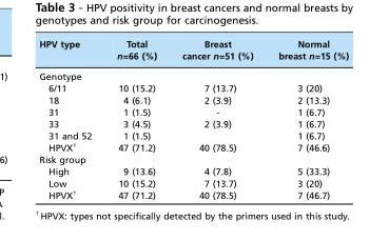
<table><thead><tr><td>HPV type</td><td>Total n=66 (%)</td><td>Breast cancer n=51 (%)</td><td>Normal breast n=15 (%)</td></tr></thead><tbody><tr><td colspan="4">Genotype</td></tr><tr><td>6/11</td><td>10 (15.2)</td><td>7 (13.7)</td><td>3 (20)</td></tr><tr><td>18</td><td>4 (6.1)</td><td>2 (3.9)</td><td>2 (13.3)</td></tr><tr><td>31</td><td>1 (1.5)</td><td>-</td><td>1 (6.7)</td></tr><tr><td>33</td><td>3 (4.5)</td><td>2 (3.9)</td><td>1 (6.7)</td></tr><tr><td>31 and 52</td><td>1 (1.5)</td><td></td><td>1 (6.7)</td></tr><tr><td>HPVX<sup>†</sup></td><td>47 (71.2)</td><td>40 (78.5)</td><td>7 (46.6)</td></tr><tr><td colspan="4">Risk group</td></tr><tr><td>High</td><td>9 (13.6)</td><td>4 (7.8)</td><td>5 (33.3)</td></tr><tr><td>Low</td><td>10 (15.2)</td><td>7 (13.7)</td><td>3 (20)</td></tr><tr><td>HPVX<sup>†</sup></td><td>47 (71.2)</td><td>40 (78.5)</td><td>7 (46.7)</td></tr></tbody></table>